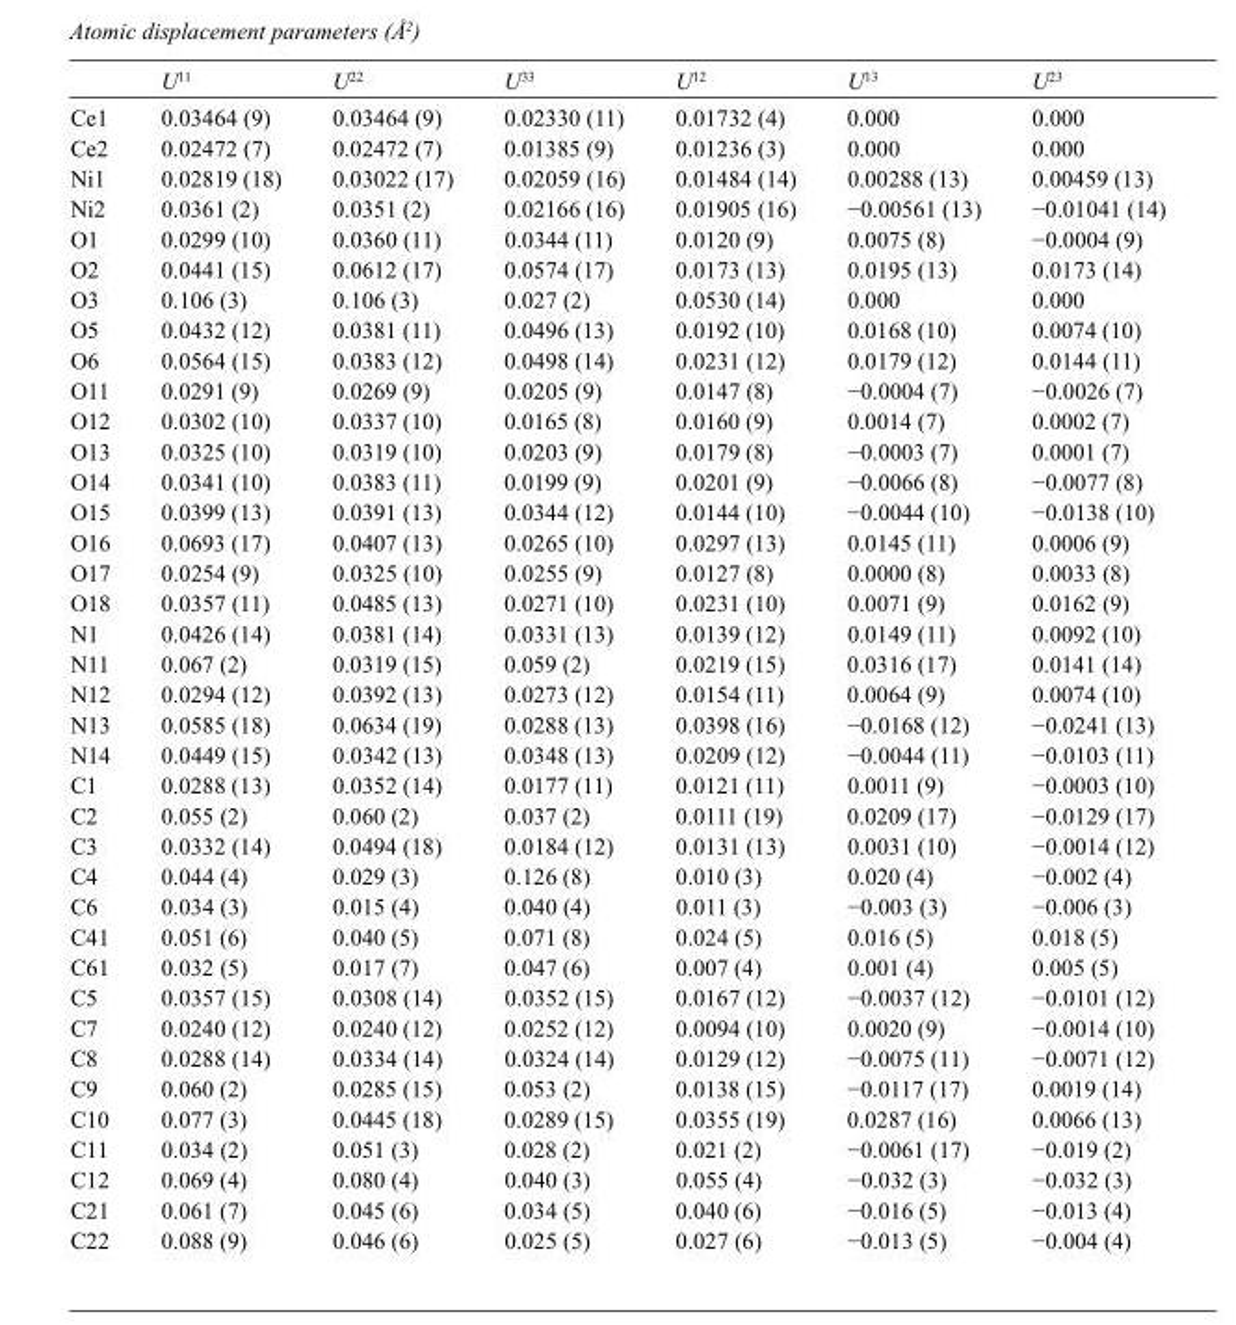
<table><thead><tr><td></td><td>U<sup>11</sup></td><td>U<sup>22</sup></td><td>U<sup>33</sup></td><td>U<sup>12</sup></td><td>U<sup>13</sup></td><td>U<sup>23</sup></td></tr></thead><tbody><tr><td>Ce1</td><td>0.03464 (9)</td><td>0.03464 (9)</td><td>0.02330 (11)</td><td>0.01732 (4)</td><td>0.000</td><td>0.000</td></tr><tr><td>Ce2</td><td>0.02472 (7)</td><td>0.02472 (7)</td><td>0.01385 (9)</td><td>0.01236 (3)</td><td>0.000</td><td>0.000</td></tr><tr><td>Ni1</td><td>0.02819 (18)</td><td>0.03022 (17)</td><td>0.02059 (16)</td><td>0.01484 (14)</td><td>0.00288 (13)</td><td>0.00459 (13)</td></tr><tr><td>Ni2</td><td>0.0361 (2)</td><td>0.0351 (2)</td><td>0.02166 (16)</td><td>0.01905 (16)</td><td>−0.00561 (13)</td><td>−0.01041 (14)</td></tr><tr><td>O1</td><td>0.0299 (10)</td><td>0.0360 (11)</td><td>0.0344 (11)</td><td>0.0120 (9)</td><td>0.0075 (8)</td><td>−0.0004 (9)</td></tr><tr><td>O2</td><td>0.0441 (15)</td><td>0.0612 (17)</td><td>0.0574 (17)</td><td>0.0173 (13)</td><td>0.0195 (13)</td><td>0.0173 (14)</td></tr><tr><td>O3</td><td>0.106 (3)</td><td>0.106 (3)</td><td>0.027 (2)</td><td>0.0530 (14)</td><td>0.000</td><td>0.000</td></tr><tr><td>O5</td><td>0.0432 (12)</td><td>0.0381 (11)</td><td>0.0496 (13)</td><td>0.0192 (10)</td><td>0.0168 (10)</td><td>0.0074 (10)</td></tr><tr><td>O6</td><td>0.0564 (15)</td><td>0.0383 (12)</td><td>0.0498 (14)</td><td>0.0231 (12)</td><td>0.0179 (12)</td><td>0.0144 (11)</td></tr><tr><td>O11</td><td>0.0291 (9)</td><td>0.0269 (9)</td><td>0.0205 (9)</td><td>0.0147 (8)</td><td>−0.0004 (7)</td><td>−0.0026 (7)</td></tr><tr><td>O12</td><td>0.0302 (10)</td><td>0.0337 (10)</td><td>0.0165 (8)</td><td>0.0160 (9)</td><td>0.0014 (7)</td><td>0.0002 (7)</td></tr><tr><td>O13</td><td>0.0325 (10)</td><td>0.0319 (10)</td><td>0.0203 (9)</td><td>0.0179 (8)</td><td>−0.0003 (7)</td><td>0.0001 (7)</td></tr><tr><td>O14</td><td>0.0341 (10)</td><td>0.0383 (11)</td><td>0.0199 (9)</td><td>0.0201 (9)</td><td>−0.0066 (8)</td><td>−0.0077 (8)</td></tr><tr><td>O15</td><td>0.0399 (13)</td><td>0.0391 (13)</td><td>0.0344 (12)</td><td>0.0144 (10)</td><td>−0.0044 (10)</td><td>−0.0138 (10)</td></tr><tr><td>O16</td><td>0.0693 (17)</td><td>0.0407 (13)</td><td>0.0265 (10)</td><td>0.0297 (13)</td><td>0.0145 (11)</td><td>0.0006 (9)</td></tr><tr><td>O17</td><td>0.0254 (9)</td><td>0.0325 (10)</td><td>0.0255 (9)</td><td>0.0127 (8)</td><td>0.0000 (8)</td><td>0.0033 (8)</td></tr><tr><td>O18</td><td>0.0357 (11)</td><td>0.0485 (13)</td><td>0.0271 (10)</td><td>0.0231 (10)</td><td>0.0071 (9)</td><td>0.0162 (9)</td></tr><tr><td>N1</td><td>0.0426 (14)</td><td>0.0381 (14)</td><td>0.0331 (13)</td><td>0.0139 (12)</td><td>0.0149 (11)</td><td>0.0092 (10)</td></tr><tr><td>N11</td><td>0.067 (2)</td><td>0.0319 (15)</td><td>0.059 (2)</td><td>0.0219 (15)</td><td>0.0316 (17)</td><td>0.0141 (14)</td></tr><tr><td>N12</td><td>0.0294 (12)</td><td>0.0392 (13)</td><td>0.0273 (12)</td><td>0.0154 (11)</td><td>0.0064 (9)</td><td>0.0074 (10)</td></tr><tr><td>N13</td><td>0.0585 (18)</td><td>0.0634 (19)</td><td>0.0288 (13)</td><td>0.0398 (16)</td><td>−0.0168 (12)</td><td>−0.0241 (13)</td></tr><tr><td>N14</td><td>0.0449 (15)</td><td>0.0342 (13)</td><td>0.0348 (13)</td><td>0.0209 (12)</td><td>−0.0044 (11)</td><td>−0.0103 (11)</td></tr><tr><td>C1</td><td>0.0288 (13)</td><td>0.0352 (14)</td><td>0.0177 (11)</td><td>0.0121 (11)</td><td>0.0011 (9)</td><td>−0.0003 (10)</td></tr><tr><td>C2</td><td>0.055 (2)</td><td>0.060 (2)</td><td>0.037 (2)</td><td>0.0111 (19)</td><td>0.0209 (17)</td><td>−0.0129 (17)</td></tr><tr><td>C3</td><td>0.0332 (14)</td><td>0.0494 (18)</td><td>0.0184 (12)</td><td>0.0131 (13)</td><td>0.0031 (10)</td><td>−0.0014 (12)</td></tr><tr><td>C4</td><td>0.044 (4)</td><td>0.029 (3)</td><td>0.126 (8)</td><td>0.010 (3)</td><td>0.020 (4)</td><td>−0.002 (4)</td></tr><tr><td>C6</td><td>0.034 (3)</td><td>0.015 (4)</td><td>0.040 (4)</td><td>0.011 (3)</td><td>−0.003 (3)</td><td>−0.006 (3)</td></tr><tr><td>C41</td><td>0.051 (6)</td><td>0.040 (5)</td><td>0.071 (8)</td><td>0.024 (5)</td><td>0.016 (5)</td><td>0.018 (5)</td></tr><tr><td>C61</td><td>0.032 (5)</td><td>0.017 (7)</td><td>0.047 (6)</td><td>0.007 (4)</td><td>0.001 (4)</td><td>0.005 (5)</td></tr><tr><td>C5</td><td>0.0357 (15)</td><td>0.0308 (14)</td><td>0.0352 (15)</td><td>0.0167 (12)</td><td>−0.0037 (12)</td><td>−0.0101 (12)</td></tr><tr><td>C7</td><td>0.0240 (12)</td><td>0.0240 (12)</td><td>0.0252 (12)</td><td>0.0094 (10)</td><td>0.0020 (9)</td><td>−0.0014 (10)</td></tr><tr><td>C8</td><td>0.0288 (14)</td><td>0.0334 (14)</td><td>0.0324 (14)</td><td>0.0129 (12)</td><td>−0.0075 (11)</td><td>−0.0071 (12)</td></tr><tr><td>C9</td><td>0.060 (2)</td><td>0.0285 (15)</td><td>0.053 (2)</td><td>0.0138 (15)</td><td>−0.0117 (17)</td><td>0.0019 (14)</td></tr><tr><td>C10</td><td>0.077 (3)</td><td>0.0445 (18)</td><td>0.0289 (15)</td><td>0.0355 (19)</td><td>0.0287 (16)</td><td>0.0066 (13)</td></tr><tr><td>C11</td><td>0.034 (2)</td><td>0.051 (3)</td><td>0.028 (2)</td><td>0.021 (2)</td><td>−0.0061 (17)</td><td>−0.019 (2)</td></tr><tr><td>C12</td><td>0.069 (4)</td><td>0.080 (4)</td><td>0.040 (3)</td><td>0.055 (4)</td><td>−0.032 (3)</td><td>−0.032 (3)</td></tr><tr><td>C21</td><td>0.061 (7)</td><td>0.045 (6)</td><td>0.034 (5)</td><td>0.040 (6)</td><td>−0.016 (5)</td><td>−0.013 (4)</td></tr><tr><td>C22</td><td>0.088 (9)</td><td>0.046 (6)</td><td>0.025 (5)</td><td>0.027 (6)</td><td>−0.013 (5)</td><td>−0.004 (4)</td></tr></tbody></table>